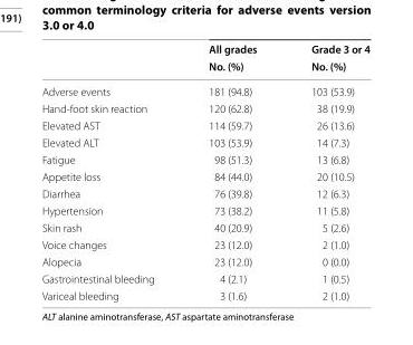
<table><thead><tr><td rowspan="2"></td><td rowspan="2">All grades No. (%)</td><td rowspan="2">Grade 3 or 4 No. (%)</td></tr><tr></tr></thead><tbody><tr><td>Adverse events</td><td>181 (94.8)</td><td>103 (53.9)</td></tr><tr><td>Hand-foot skin reaction</td><td>120 (62.8)</td><td>38 (19.9)</td></tr><tr><td>Elevated AST</td><td>114 (59.7)</td><td>26 (13.6)</td></tr><tr><td>Elevated ALT</td><td>103 (53.9)</td><td>14 (7.3)</td></tr><tr><td>Fatigue</td><td>98 (51.3)</td><td>13 (6.8)</td></tr><tr><td>Appetite loss</td><td>84 (44.0)</td><td>20 (10.5)</td></tr><tr><td>Diarrhea</td><td>76 (39.8)</td><td>12 (6.3)</td></tr><tr><td>Hypertension</td><td>73 (38.2)</td><td>11 (5.8)</td></tr><tr><td>Skin rash</td><td>40 (20.9)</td><td>5 (2.6)</td></tr><tr><td>Voice changes</td><td>23 (12.0)</td><td>2 (1.0)</td></tr><tr><td>Alopecia</td><td>23 (12.0)</td><td>0 (0.0)</td></tr><tr><td>Gastrointestinal bleeding</td><td>4 (2.1)</td><td>1 (0.5)</td></tr><tr><td>Variceal bleeding</td><td>3 (1.6)</td><td>2 (1.0)</td></tr></tbody></table>